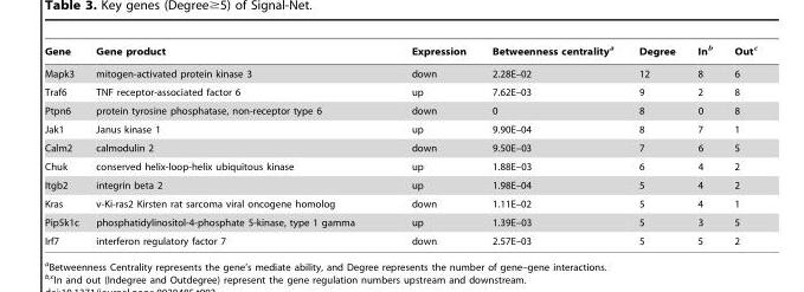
<table><thead><tr><td>Gene</td><td>Gene product</td><td>Expression</td><td>Betweenness centrality<sup>a</sup></td><td>Degree</td><td>In<sup>b</sup></td><td>Out<sup>c</sup></td></tr></thead><tbody><tr><td>Mapk3</td><td>mitogen-activated protein kinase 3</td><td>down</td><td>2.28E–02</td><td>12</td><td>8</td><td>6</td></tr><tr><td>Traf6</td><td>TNF receptor-associated factor 6</td><td>up</td><td>7.62E–03</td><td>9</td><td>2</td><td>8</td></tr><tr><td>Ptpn6</td><td>protein tyrosine phosphatase, non-receptor type 6</td><td>down</td><td>0</td><td>8</td><td>0</td><td>8</td></tr><tr><td>Jak1</td><td>Janus kinase 1</td><td>up</td><td>9.90E–04</td><td>8</td><td>7</td><td>1</td></tr><tr><td>Calm2</td><td>calmodulin 2</td><td>down</td><td>9.50E–03</td><td>7</td><td>6</td><td>5</td></tr><tr><td>Chuk</td><td>conserved helix-loop-helix ubiquitous kinase</td><td>up</td><td>1.88E–03</td><td>6</td><td>4</td><td>2</td></tr><tr><td>Itgb2</td><td>integrin beta 2</td><td>up</td><td>1.98E–04</td><td>5</td><td>4</td><td>2</td></tr><tr><td>Kras</td><td>v-Ki-ras2 Kirsten rat sarcoma viral oncogene homolog</td><td>down</td><td>1.11E–02</td><td>5</td><td>4</td><td>1</td></tr><tr><td>Pip5k1c</td><td>phosphatidylinositol-4-phosphate 5-kinase, type 1 gamma</td><td>up</td><td>1.39E–03</td><td>5</td><td>3</td><td>5</td></tr><tr><td>Irf7</td><td>interferon regulatory factor 7</td><td>down</td><td>2.57E–03</td><td>5</td><td>5</td><td>2</td></tr></tbody></table>